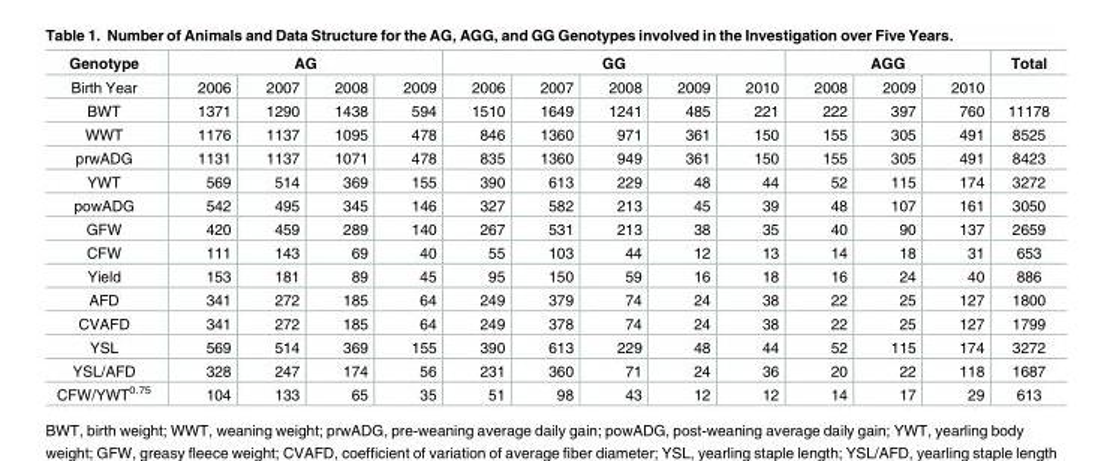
<table><thead><tr><td rowspan="2">Genotype Birth Year</td><td colspan="4">AG</td><td colspan="5">GG</td><td colspan="3">AGG</td><td rowspan="2">Total</td></tr><tr><td>2006</td><td>2007</td><td>2008</td><td>2009</td><td>2006</td><td>2007</td><td>2008</td><td>2009</td><td>2010</td><td>2008</td><td>2009</td><td>2010</td></tr></thead><tbody><tr><td>BWT</td><td>1371</td><td>1290</td><td>1438</td><td>594</td><td>1510</td><td>1649</td><td>1241</td><td>485</td><td>221</td><td>222</td><td>397</td><td>760</td><td>11178</td></tr><tr><td>WWT</td><td>1176</td><td>1137</td><td>1095</td><td>478</td><td>846</td><td>1360</td><td>971</td><td>361</td><td>150</td><td>155</td><td>305</td><td>491</td><td>8525</td></tr><tr><td>prwADG</td><td>1131</td><td>1137</td><td>1071</td><td>478</td><td>835</td><td>1360</td><td>949</td><td>361</td><td>150</td><td>155</td><td>305</td><td>491</td><td>8423</td></tr><tr><td>YWT</td><td>569</td><td>514</td><td>369</td><td>155</td><td>390</td><td>613</td><td>229</td><td>48</td><td>44</td><td>52</td><td>115</td><td>174</td><td>3272</td></tr><tr><td>powADG</td><td>542</td><td>495</td><td>345</td><td>146</td><td>327</td><td>582</td><td>213</td><td>45</td><td>39</td><td>48</td><td>107</td><td>161</td><td>3050</td></tr><tr><td>GFW</td><td>420</td><td>459</td><td>289</td><td>140</td><td>267</td><td>531</td><td>213</td><td>38</td><td>35</td><td>40</td><td>90</td><td>137</td><td>2659</td></tr><tr><td>CFW</td><td>111</td><td>143</td><td>69</td><td>40</td><td>55</td><td>103</td><td>44</td><td>12</td><td>13</td><td>14</td><td>18</td><td>31</td><td>653</td></tr><tr><td>Yield</td><td>153</td><td>181</td><td>89</td><td>45</td><td>95</td><td>150</td><td>59</td><td>16</td><td>18</td><td>16</td><td>24</td><td>40</td><td>886</td></tr><tr><td>AFD</td><td>341</td><td>272</td><td>185</td><td>64</td><td>249</td><td>379</td><td>74</td><td>24</td><td>38</td><td>22</td><td>25</td><td>127</td><td>1800</td></tr><tr><td>CVAFD</td><td>341</td><td>272</td><td>185</td><td>64</td><td>249</td><td>378</td><td>74</td><td>24</td><td>38</td><td>22</td><td>25</td><td>127</td><td>1799</td></tr><tr><td>YSL</td><td>569</td><td>514</td><td>369</td><td>155</td><td>390</td><td>613</td><td>229</td><td>48</td><td>44</td><td>52</td><td>115</td><td>174</td><td>3272</td></tr><tr><td>YSL/AFD</td><td>328</td><td>247</td><td>174</td><td>56</td><td>231</td><td>360</td><td>71</td><td>24</td><td>36</td><td>20</td><td>22</td><td>118</td><td>1687</td></tr><tr><td>CFW/YWT<sup>0.75</sup></td><td>104</td><td>133</td><td>65</td><td>35</td><td>51</td><td>98</td><td>43</td><td>12</td><td>12</td><td>14</td><td>17</td><td>29</td><td>613</td></tr></tbody></table>